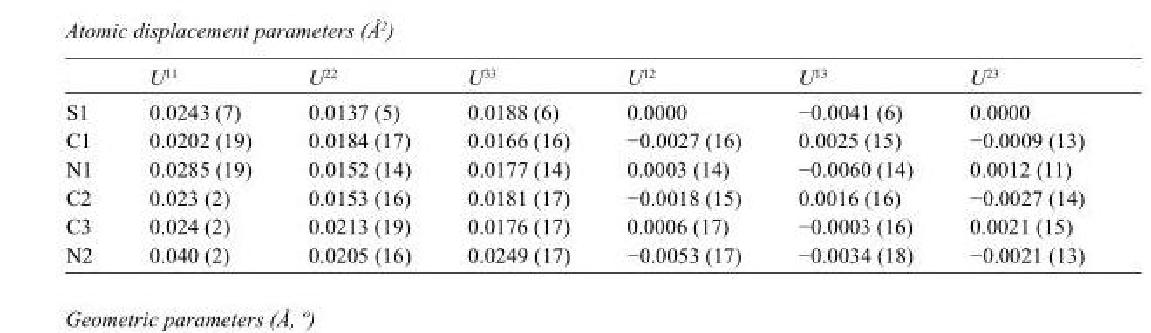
<table><thead><tr><td></td><td>U<sup>11</sup></td><td>U<sup>22</sup></td><td>U<sup>33</sup></td><td>U<sup>12</sup></td><td>U<sup>13</sup></td><td>U<sup>23</sup></td></tr></thead><tbody><tr><td>S1</td><td>0.0243 (7)</td><td>0.0137 (5)</td><td>0.0188 (6)</td><td>0.0000</td><td>−0.0041 (6)</td><td>0.0000</td></tr><tr><td>C1</td><td>0.0202 (19)</td><td>0.0184 (17)</td><td>0.0166 (16)</td><td>−0.0027 (16)</td><td>0.0025 (15)</td><td>−0.0009 (13)</td></tr><tr><td>N1</td><td>0.0285 (19)</td><td>0.0152 (14)</td><td>0.0177 (14)</td><td>0.0003 (14)</td><td>−0.0060 (14)</td><td>0.0012 (11)</td></tr><tr><td>C2</td><td>0.023 (2)</td><td>0.0153 (16)</td><td>0.0181 (17)</td><td>−0.0018 (15)</td><td>0.0016 (16)</td><td>−0.0027 (14)</td></tr><tr><td>C3</td><td>0.024 (2)</td><td>0.0213 (19)</td><td>0.0176 (17)</td><td>0.0006 (17)</td><td>−0.0003 (16)</td><td>0.0021 (15)</td></tr><tr><td>N2</td><td>0.040 (2)</td><td>0.0205 (16)</td><td>0.0249 (17)</td><td>−0.0053 (17)</td><td>−0.0034 (18)</td><td>−0.0021 (13)</td></tr></tbody></table>